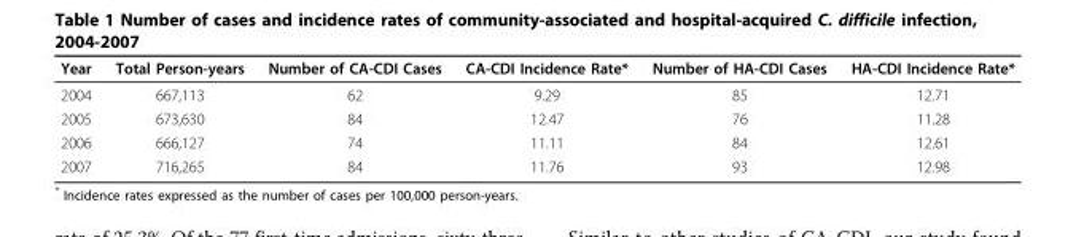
<table><thead><tr><td>Year</td><td>Total Person-years</td><td>Number of CA-CDI Cases</td><td>CA-CDI Incidence Rate*</td><td>Number of HA-CDI Cases</td><td>HA-CDI Incidence Rate*</td></tr></thead><tbody><tr><td>2004</td><td>667,113</td><td>62</td><td>9.29</td><td>85</td><td>12.71</td></tr><tr><td>2005</td><td>673,630</td><td>84</td><td>12.47</td><td>76</td><td>11.28</td></tr><tr><td>2006</td><td>666,127</td><td>74</td><td>11.11</td><td>84</td><td>12.61</td></tr><tr><td>2007</td><td>716,265</td><td>84</td><td>11.76</td><td>93</td><td>12.98</td></tr></tbody></table>